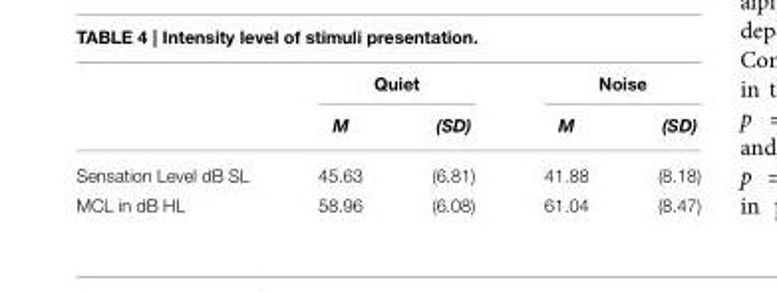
<table><thead><tr><td rowspan="2"></td><td colspan="2">Quiet</td><td colspan="2">Noise</td></tr><tr><td>M</td><td>(SD)</td><td>M</td><td>(SD)</td></tr></thead><tbody><tr><td>Sensation Level dB SL</td><td>45.63</td><td>(6.81)</td><td>41.88</td><td>(8.18)</td></tr><tr><td>MCL in dB HL</td><td>58.96</td><td>(6.08)</td><td>61.04</td><td>(8.47)</td></tr></tbody></table>